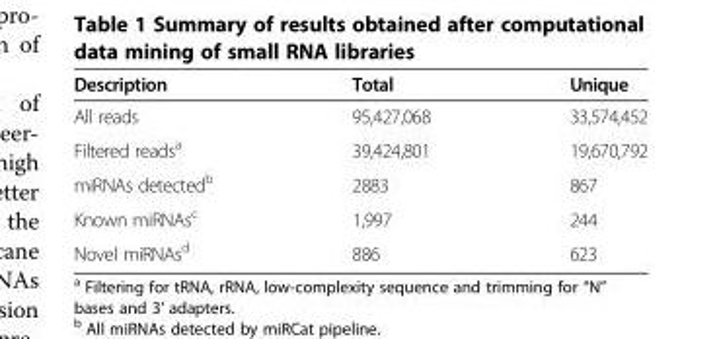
<table><thead><tr><td>Description</td><td>Total</td><td>Unique</td></tr></thead><tbody><tr><td>All reads</td><td>95,427,068</td><td>33,574,452</td></tr><tr><td>Filtered reads<sup>a</sup></td><td>39,424,801</td><td>19,670,792</td></tr><tr><td>miRNAs detected<sup>b</sup></td><td>2883</td><td>867</td></tr><tr><td>Known miRNAs<sup>c</sup></td><td>1,997</td><td>244</td></tr><tr><td>Novel miRNAs<sup>d</sup></td><td>886</td><td>623</td></tr></tbody></table>